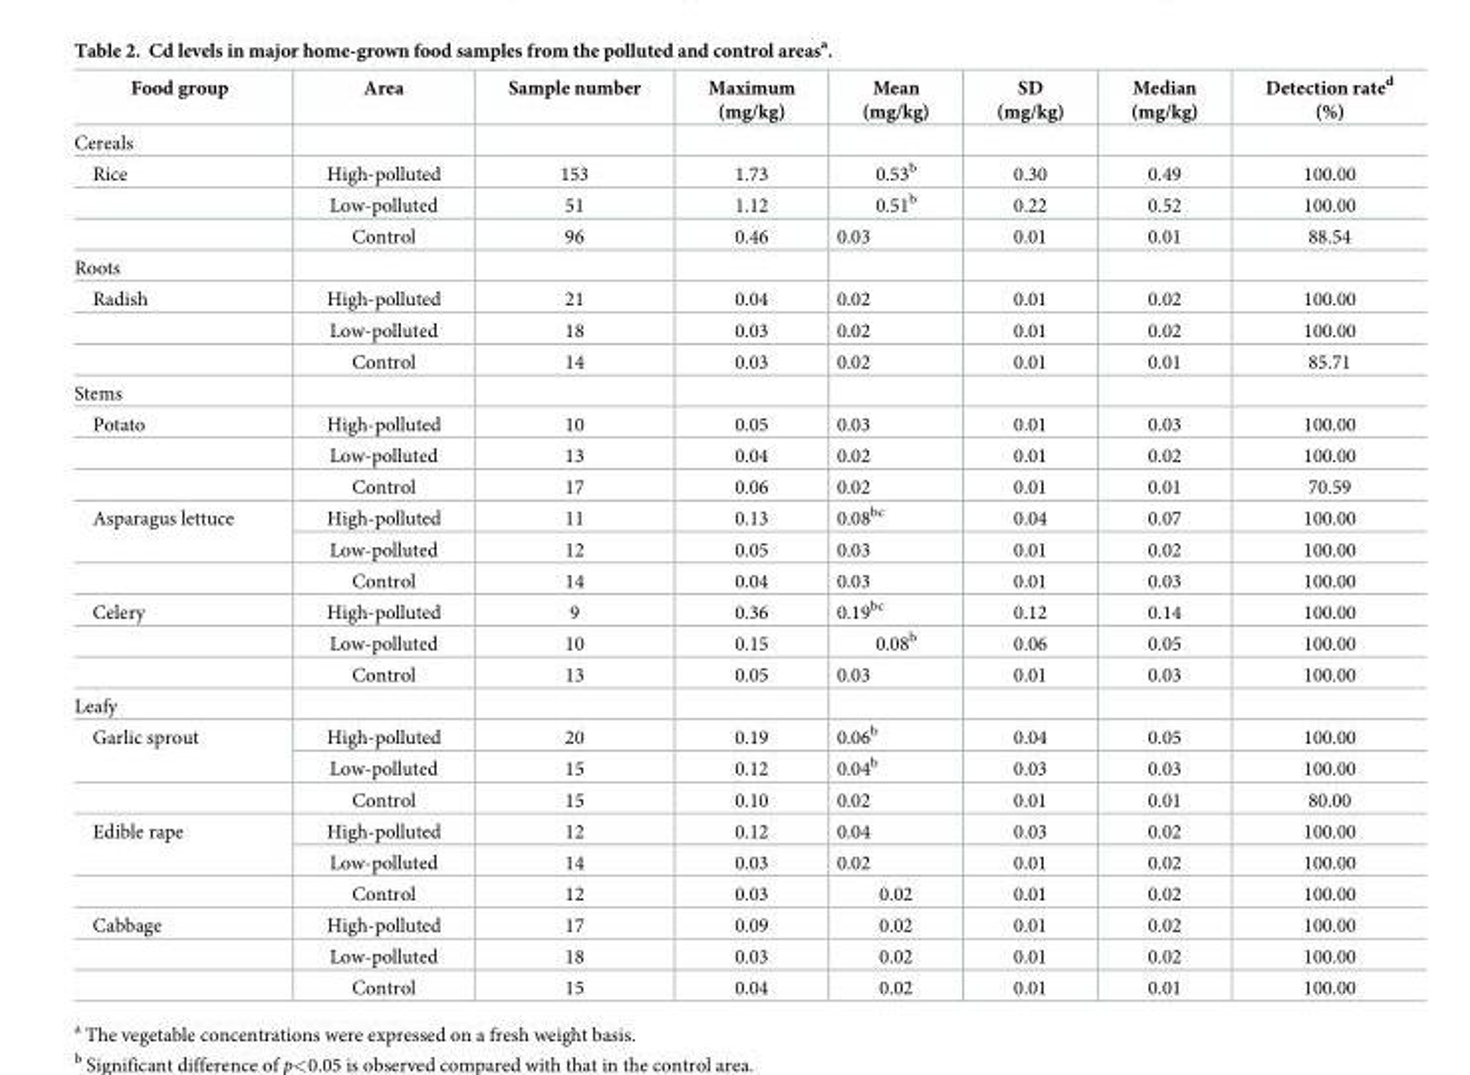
<table><thead><tr><td>Food group</td><td>Area</td><td>Sample number</td><td>Maximum (mg/kg)</td><td>Mean (mg/kg)</td><td>SD (mg/kg)</td><td>Median (mg/kg)</td><td>Detection rate<sup>d</sup> (%)</td></tr></thead><tbody><tr><td colspan="8">Cereals</td></tr><tr><td rowspan="3">Rice</td><td>High-polluted</td><td>153</td><td>1.73</td><td>0.53<sup>b</sup></td><td>0.30</td><td>0.49</td><td>100.00</td></tr><tr><td>Low-polluted</td><td>51</td><td>1.12</td><td>0.51<sup>b</sup></td><td>0.22</td><td>0.52</td><td>100.00</td></tr><tr><td>Control</td><td>96</td><td>0.46</td><td>0.03</td><td>0.01</td><td>0.01</td><td>88.54</td></tr><tr><td colspan="8">Roots</td></tr><tr><td rowspan="3">Radish</td><td>High-polluted</td><td>21</td><td>0.04</td><td>0.02</td><td>0.01</td><td>0.02</td><td>100.00</td></tr><tr><td>Low-polluted</td><td>18</td><td>0.03</td><td>0.02</td><td>0.01</td><td>0.02</td><td>100.00</td></tr><tr><td>Control</td><td>14</td><td>0.03</td><td>0.02</td><td>0.01</td><td>0.01</td><td>85.71</td></tr><tr><td colspan="8">Stems</td></tr><tr><td rowspan="3">Potato</td><td>High-polluted</td><td>10</td><td>0.05</td><td>0.03</td><td>0.01</td><td>0.03</td><td>100.00</td></tr><tr><td>Low-polluted</td><td>13</td><td>0.04</td><td>0.02</td><td>0.01</td><td>0.02</td><td>100.00</td></tr><tr><td>Control</td><td>17</td><td>0.06</td><td>0.02</td><td>0.01</td><td>0.01</td><td>70.59</td></tr><tr><td rowspan="3">Asparagus lettuce</td><td>High-polluted</td><td>11</td><td>0.13</td><td>0.08<sup>bc</sup></td><td>0.04</td><td>0.07</td><td>100.00</td></tr><tr><td>Low-polluted</td><td>12</td><td>0.05</td><td>0.03</td><td>0.01</td><td>0.02</td><td>100.00</td></tr><tr><td>Control</td><td>14</td><td>0.04</td><td>0.03</td><td>0.01</td><td>0.03</td><td>100.00</td></tr><tr><td rowspan="3">Celery</td><td>High-polluted</td><td>9</td><td>0.36</td><td>0.19<sup>bc</sup></td><td>0.12</td><td>0.14</td><td>100.00</td></tr><tr><td>Low-polluted</td><td>10</td><td>0.15</td><td>0.08<sup>b</sup></td><td>0.06</td><td>0.05</td><td>100.00</td></tr><tr><td>Control</td><td>13</td><td>0.05</td><td>0.03</td><td>0.01</td><td>0.03</td><td>100.00</td></tr><tr><td colspan="8">Leafy</td></tr><tr><td rowspan="3">Garlic sprout</td><td>High-polluted</td><td>20</td><td>0.19</td><td>0.06<sup>b</sup></td><td>0.04</td><td>0.05</td><td>100.00</td></tr><tr><td>Low-polluted</td><td>15</td><td>0.12</td><td>0.04<sup>b</sup></td><td>0.03</td><td>0.03</td><td>100.00</td></tr><tr><td>Control</td><td>15</td><td>0.10</td><td>0.02</td><td>0.01</td><td>0.01</td><td>80.00</td></tr><tr><td rowspan="3">Edible rape</td><td>High-polluted</td><td>12</td><td>0.12</td><td>0.04</td><td>0.03</td><td>0.02</td><td>100.00</td></tr><tr><td>Low-polluted</td><td>14</td><td>0.03</td><td>0.02</td><td>0.01</td><td>0.02</td><td>100.00</td></tr><tr><td>Control</td><td>12</td><td>0.03</td><td>0.02</td><td>0.01</td><td>0.02</td><td>100.00</td></tr><tr><td rowspan="3">Cabbage</td><td>High-polluted</td><td>17</td><td>0.09</td><td>0.02</td><td>0.01</td><td>0.02</td><td>100.00</td></tr><tr><td>Low-polluted</td><td>18</td><td>0.03</td><td>0.02</td><td>0.01</td><td>0.02</td><td>100.00</td></tr><tr><td>Control</td><td>15</td><td>0.04</td><td>0.02</td><td>0.01</td><td>0.01</td><td>100.00</td></tr></tbody></table>